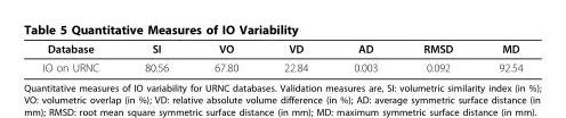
<table><thead><tr><td>Database</td><td>SI</td><td>VO</td><td>VD</td><td>AD</td><td>RMSD</td><td>MD</td></tr></thead><tbody><tr><td>IO on URNC</td><td>80.56</td><td>67.80</td><td>22.84</td><td>0.003</td><td>0.092</td><td>92.54</td></tr></tbody></table>